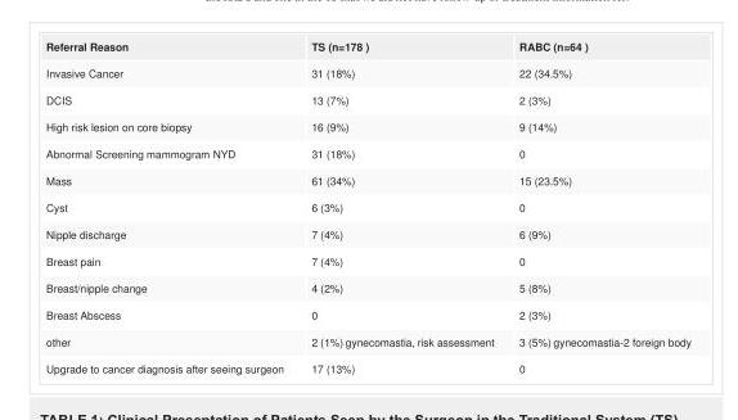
<table><tbody><tr><td>Referral Reason</td><td>TS (n=178 )</td><td>RABC (n=64 )</td></tr><tr><td>Invasive Cancer</td><td>31 (18%)</td><td>22 (34.5%)</td></tr><tr><td>DCIS</td><td>13 (7%)</td><td>2 (3%)</td></tr><tr><td>High risk lesion on core biopsy</td><td>16 (9%)</td><td>9 (14%)</td></tr><tr><td>Abnormal Screening mammogram NYD</td><td>31 (18%)</td><td>0</td></tr><tr><td>Mass</td><td>61 (34%)</td><td>15 (23.5%)</td></tr><tr><td>Cyst</td><td>6 (3%)</td><td>0</td></tr><tr><td>Nipple discharge</td><td>7 (4%)</td><td>6 (9%)</td></tr><tr><td>Breast pain</td><td>7 (4%)</td><td>0</td></tr><tr><td>Breast/nipple change</td><td>4 (2%)</td><td>5 (8%)</td></tr><tr><td>Breast Abscess</td><td>0</td><td>2 (3%)</td></tr><tr><td>other</td><td>2 (1%) gynecomastia, risk assessment</td><td>3 (5%) gynecomastia-2 foreign body</td></tr><tr><td>Upgrade to cancer diagnosis after seeing surgeon</td><td>17 (13%)</td><td>0</td></tr></tbody></table>